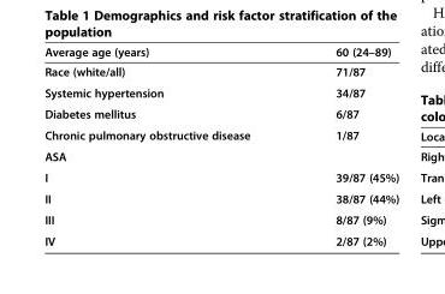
<table><thead><tr><td>Average age (years)</td><td>60 (24–89)</td></tr></thead><tbody><tr><td>Race (white/all)</td><td>71/87</td></tr><tr><td>Systemic hypertension</td><td>34/87</td></tr><tr><td>Diabetes mellitus</td><td>6/87</td></tr><tr><td>Chronic pulmonary obstructive disease</td><td>1/87</td></tr><tr><td colspan="2">ASA</td></tr><tr><td>I</td><td>39/87 (45%)</td></tr><tr><td>II</td><td>38/87 (44%)</td></tr><tr><td>III</td><td>8/87 (9%)</td></tr><tr><td>IV</td><td>2/87 (2%)</td></tr></tbody></table>